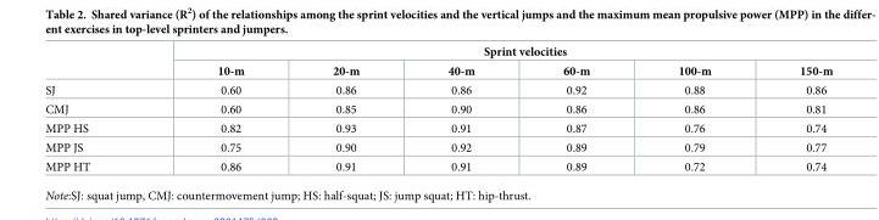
<table><thead><tr><td rowspan="2"></td><td colspan="6">Sprint velocities</td></tr><tr><td>10-m</td><td>20-m</td><td>40-m</td><td>60-m</td><td>100-m</td><td>150-m</td></tr></thead><tbody><tr><td>SJ</td><td>0.60</td><td>0.86</td><td>0.86</td><td>0.92</td><td>0.88</td><td>0.86</td></tr><tr><td>CMJ</td><td>0.60</td><td>0.85</td><td>0.90</td><td>0.86</td><td>0.86</td><td>0.81</td></tr><tr><td>MPP HS</td><td>0.82</td><td>0.93</td><td>0.91</td><td>0.87</td><td>0.76</td><td>0.74</td></tr><tr><td>MPP JS</td><td>0.75</td><td>0.90</td><td>0.92</td><td>0.89</td><td>0.79</td><td>0.77</td></tr><tr><td>MPP HT</td><td>0.86</td><td>0.91</td><td>0.91</td><td>0.89</td><td>0.72</td><td>0.74</td></tr></tbody></table>